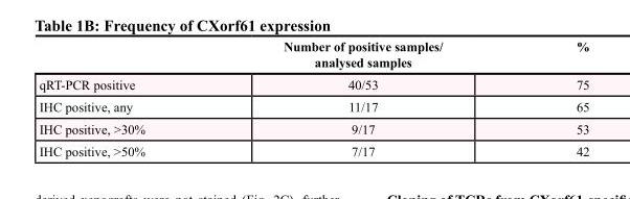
<table><thead><tr><td></td><td>Number of positive samples/ analysed samples</td><td>%</td></tr></thead><tbody><tr><td>qRT-PCR positive</td><td>40/53</td><td>75</td></tr><tr><td>IHC positive, any</td><td>11/17</td><td>65</td></tr><tr><td>IHC positive, &gt;30%</td><td>9/17</td><td>53</td></tr><tr><td>IHC positive, &gt;50%</td><td>7/17</td><td>42</td></tr></tbody></table>